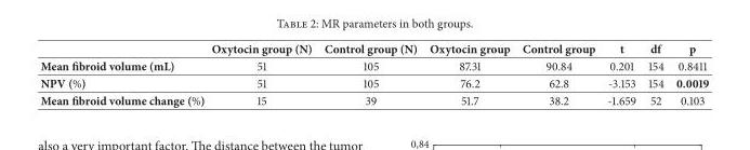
<table><thead><tr><td></td><td>Oxytocin group (N)</td><td>Control group (N)</td><td>Oxytocin group</td><td>Control group</td><td>t</td><td>df</td><td>p</td></tr></thead><tbody><tr><td>Mean fibroid volume (mL)</td><td>51</td><td>105</td><td>87.31</td><td>90.84</td><td>0.201</td><td>154</td><td>0.8411</td></tr><tr><td>NPV (%)</td><td>51</td><td>105</td><td>76.2</td><td>62.8</td><td>-3.153</td><td>154</td><td>0.0019</td></tr><tr><td>Mean fibroid volume change (%)</td><td>15</td><td>39</td><td>51.7</td><td>38.2</td><td>-1.659</td><td>52</td><td>0.103</td></tr></tbody></table>